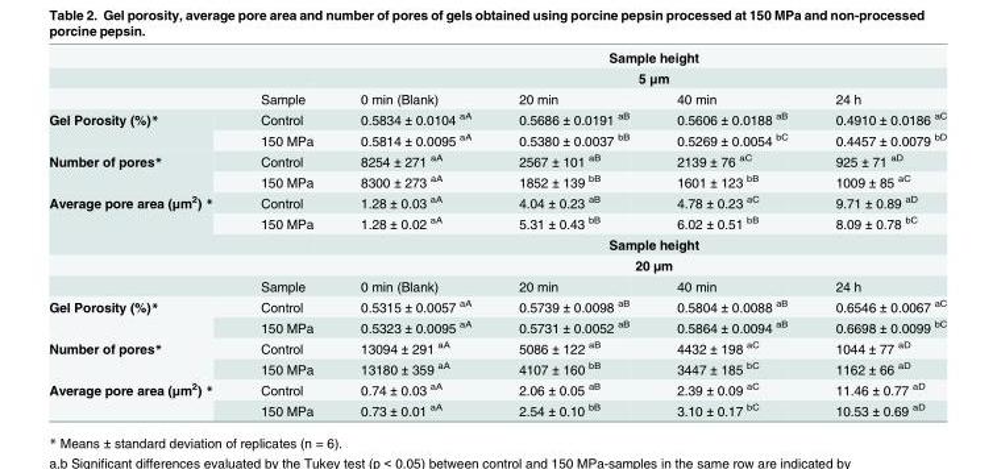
<table><thead><tr><td rowspan="3"></td><td rowspan="3">Sample</td><td rowspan="2" colspan="4">Sample height 5 μm</td></tr><tr></tr><tr><td>0 min (Blank)</td><td>20 min</td><td>40 min</td><td>24 h</td></tr></thead><tbody><tr><td rowspan="2">Gel Porosity (%)*</td><td>Control</td><td>0.5834 ± 0.0104 <sup>aA</sup></td><td>0.5686 ± 0.0191 <sup>aB</sup></td><td>0.5606 ± 0.0188 <sup>aB</sup></td><td>0.4910 ± 0.0186 <sup>aC</sup></td></tr><tr><td>150 MPa</td><td>0.5814 ± 0.0095 <sup>aA</sup></td><td>0.5380 ± 0.0037 <sup>bB</sup></td><td>0.5269 ± 0.0054 <sup>bC</sup></td><td>0.4457 ± 0.0079 <sup>bD</sup></td></tr><tr><td rowspan="2">Number of pores*</td><td>Control</td><td>8254 ± 271 <sup>aA</sup></td><td>2567 ± 101 <sup>aB</sup></td><td>2139 ± 76 <sup>aC</sup></td><td>925 ± 71 <sup>aD</sup></td></tr><tr><td>150 MPa</td><td>8300 ± 273 <sup>aA</sup></td><td>1852 ± 139 <sup>bB</sup></td><td>1601 ± 123 <sup>bB</sup></td><td>1009 ± 85 <sup>aC</sup></td></tr><tr><td rowspan="5">Average pore area (μm<sup>2</sup>) *</td><td>Control</td><td>1.28 ± 0.03 <sup>aA</sup></td><td>4.04 ± 0.23 <sup>aB</sup></td><td>4.78 ± 0.23 <sup>aC</sup></td><td>9.71 ± 0.89 <sup>aD</sup></td></tr><tr><td>150 MPa</td><td>1.28 ± 0.02 <sup>aA</sup></td><td>5.31 ± 0.43 <sup>bB</sup></td><td>6.02 ± 0.51 <sup>bB</sup></td><td>8.09 ± 0.78 <sup>bC</sup></td></tr><tr><td></td><td colspan="4">Sample height</td></tr><tr><td></td><td colspan="4">20 µm</td></tr><tr><td>Sample</td><td>0 min (Blank)</td><td>20 min</td><td>40 min</td><td>24 h</td></tr><tr><td rowspan="2">Gel Porosity (%)*</td><td>Control</td><td>0.5315 ± 0.0057 <sup>aA</sup></td><td>0.5739 ± 0.0098 <sup>aB</sup></td><td>0.5804 ± 0.0088 <sup>aB</sup></td><td>0.6546 ± 0.0067 <sup>aC</sup></td></tr><tr><td>150 MPa</td><td>0.5323 ± 0.0095 <sup>aA</sup></td><td>0.5731 ± 0.0052 <sup>aB</sup></td><td>0.5864 ± 0.0094 <sup>aB</sup></td><td>0.6698 ± 0.0099 <sup>bC</sup></td></tr><tr><td rowspan="2">Number of pores*</td><td>Control</td><td>13094 ± 291 <sup>aA</sup></td><td>5086 ± 122 <sup>aB</sup></td><td>4432 ± 198 <sup>aC</sup></td><td>1044 ± 77 <sup>aD</sup></td></tr><tr><td>150 MPa</td><td>13180 ± 359 <sup>aA</sup></td><td>4107 ± 160 <sup>bB</sup></td><td>3447 ± 185 <sup>bC</sup></td><td>1162 ± 66 <sup>aD</sup></td></tr><tr><td rowspan="2">Average pore area (μm<sup>2</sup>) *</td><td>Control</td><td>0.74 ± 0.03 <sup>aA</sup></td><td>2.06 ± 0.05 <sup>aB</sup></td><td>2.39 ± 0.09 <sup>aC</sup></td><td>11.46 ± 0.77 <sup>aD</sup></td></tr><tr><td>150 MPa</td><td>0.73 ± 0.01 <sup>aA</sup></td><td>2.54 ± 0.10 <sup>bB</sup></td><td>3.10 ± 0.17 <sup>bC</sup></td><td>10.53 ± 0.69 <sup>aD</sup></td></tr></tbody></table>